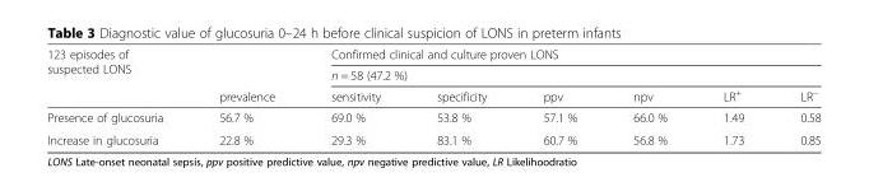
<table><thead><tr><td rowspan="3">123 episodes of suspected LONS</td><td rowspan="3">prevalence</td><td rowspan="2" colspan="6">Confirmed clinical and culture proven LONS n = 58 (47.2 %)</td></tr><tr></tr><tr><td>sensitivity</td><td>specificity</td><td>ppv</td><td>npv</td><td>LR<sup>+</sup></td><td>LR<sup>−</sup></td></tr></thead><tbody><tr><td>Presence of glucosuria</td><td>56.7 %</td><td>69.0 %</td><td>53.8 %</td><td>57.1 %</td><td>66.0 %</td><td>1.49</td><td>0.58</td></tr><tr><td>Increase in glucosuria</td><td>22.8 %</td><td>29.3 %</td><td>83.1 %</td><td>60.7 %</td><td>56.8 %</td><td>1.73</td><td>0.85</td></tr></tbody></table>